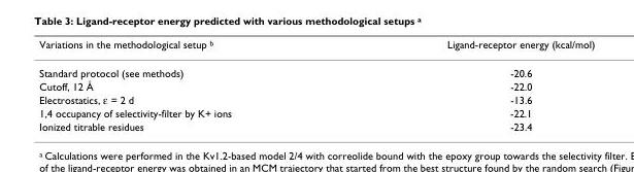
<table><thead><tr><td>Variations in the methodological setup <sup>b</sup></td><td>Ligand-receptor energy (kcal/mol)</td></tr></thead><tbody><tr><td>Standard protocol (see methods)</td><td>-20.6</td></tr><tr><td>Cutoff, 12 Å</td><td>-22.0</td></tr><tr><td>Electrostatics, ε = 2 d</td><td>-13.6</td></tr><tr><td>1,4 occupancy of selectivity-filter by K+ ions</td><td>-22.1</td></tr><tr><td>Ionized titrable residues</td><td>-23.4</td></tr></tbody></table>